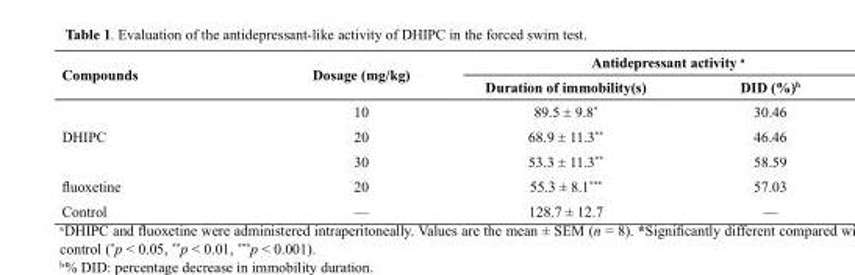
<table><thead><tr><td rowspan="2">Compounds</td><td rowspan="2">Dosage (mg/kg)</td><td colspan="2">Antidepressant activity a</td></tr><tr><td>Duration of immobility(s)</td><td>DID (%)b</td></tr></thead><tbody><tr><td rowspan="3">DHIPC</td><td>10</td><td>89.5 ± 9.8*</td><td>30.46</td></tr><tr><td>20</td><td>68.9 ± 11.3**</td><td>46.46</td></tr><tr><td>30</td><td>53.3 ± 11.3**</td><td>58.59</td></tr><tr><td>fluoxetine</td><td>20</td><td>55.3 ± 8.1***</td><td>57.03</td></tr><tr><td>Control</td><td>—</td><td>128.7 ± 12.7</td><td>—</td></tr></tbody></table>